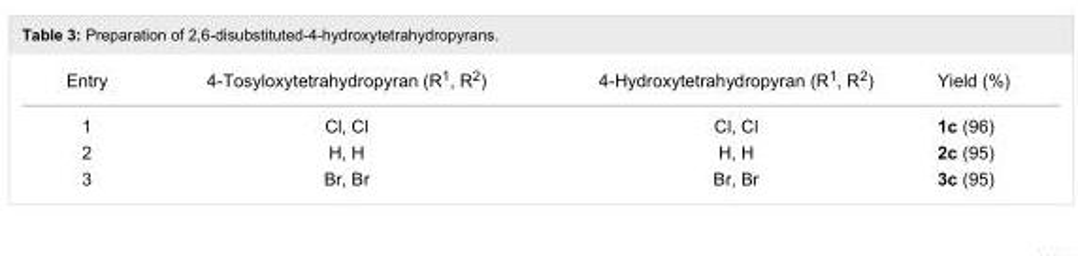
<table><tbody><tr><td>Entry</td><td>4-Tosyloxytetrahydropyran (R<sup>1</sup>, R<sup>2</sup>)</td><td>4-Hydroxytetrahydropyran (R<sup>1</sup>, R<sup>2</sup>)</td><td>Yield (%)</td></tr><tr><td>1</td><td>Cl, Cl</td><td>Cl, Cl</td><td>1c (96)</td></tr><tr><td>2</td><td>H, H</td><td>H, H</td><td>2c (95)</td></tr><tr><td>3</td><td>Br, Br</td><td>Br, Br</td><td>3c (95)</td></tr></tbody></table>